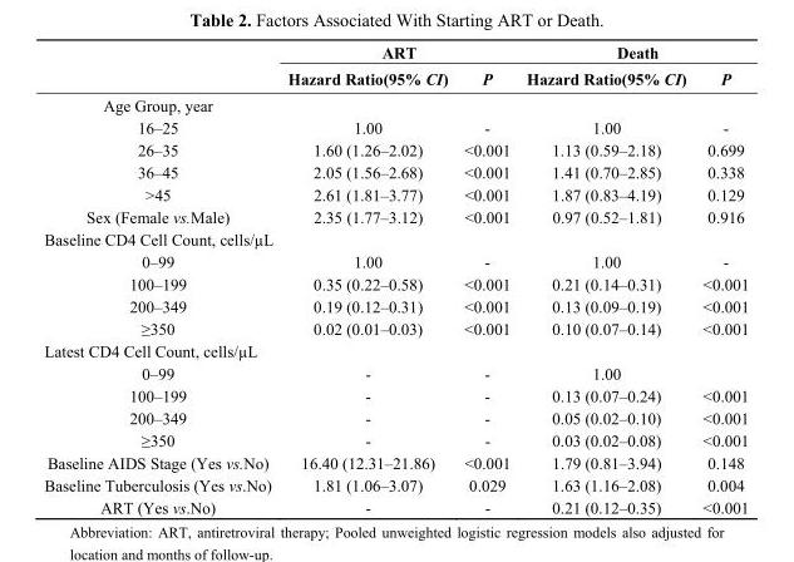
<table><thead><tr><td rowspan="2"></td><td colspan="2">ART</td><td colspan="2">Death</td></tr><tr><td>Hazard Ratio(95% CI)</td><td>P</td><td>Hazard Ratio(95% CI)</td><td>P</td></tr></thead><tbody><tr><td colspan="5">Age Group, year</td></tr><tr><td>16–25</td><td>1.00</td><td>-</td><td>1.00</td><td>-</td></tr><tr><td>26–35</td><td>1.60 (1.26–2.02)</td><td>&lt;0.001</td><td>1.13 (0.59–2.18)</td><td>0.699</td></tr><tr><td>36–45</td><td>2.05 (1.56–2.68)</td><td>&lt;0.001</td><td>1.41 (0.70–2.85)</td><td>0.338</td></tr><tr><td>&gt;45</td><td>2.61 (1.81–3.77)</td><td>&lt;0.001</td><td>1.87 (0.83–4.19)</td><td>0.129</td></tr><tr><td>Sex (Female vs.Male)</td><td>2.35 (1.77–3.12)</td><td>&lt;0.001</td><td>0.97 (0.52–1.81)</td><td>0.916</td></tr><tr><td colspan="5">Baseline CD4 Cell Count, cells/µL</td></tr><tr><td>0–99</td><td>1.00</td><td>-</td><td>1.00</td><td>-</td></tr><tr><td>100–199</td><td>0.35 (0.22–0.58)</td><td>&lt;0.001</td><td>0.21 (0.14–0.31)</td><td>&lt;0.001</td></tr><tr><td>200–349</td><td>0.19 (0.12–0.31)</td><td>&lt;0.001</td><td>0.13 (0.09–0.19)</td><td>&lt;0.001</td></tr><tr><td>≥350</td><td>0.02 (0.01–0.03)</td><td>&lt;0.001</td><td>0.10 (0.07–0.14)</td><td>&lt;0.001</td></tr><tr><td colspan="5">Latest CD4 Cell Count, cells/µL</td></tr><tr><td>0–99</td><td>-</td><td>-</td><td>1.00</td><td></td></tr><tr><td>100–199</td><td>-</td><td>-</td><td>0.13 (0.07–0.24)</td><td>&lt;0.001</td></tr><tr><td>200–349</td><td>-</td><td>-</td><td>0.05 (0.02–0.10)</td><td>&lt;0.001</td></tr><tr><td>≥350</td><td>-</td><td>-</td><td>0.03 (0.02–0.08)</td><td>&lt;0.001</td></tr><tr><td>Baseline AIDS Stage (Yes vs.No)</td><td>16.40 (12.31–21.86)</td><td>&lt;0.001</td><td>1.79 (0.81–3.94)</td><td>0.148</td></tr><tr><td>Baseline Tuberculosis (Yes vs.No)</td><td>1.81 (1.06–3.07)</td><td>0.029</td><td>1.63 (1.16–2.08)</td><td>0.004</td></tr><tr><td>ART (Yes vs.No)</td><td>-</td><td>-</td><td>0.21 (0.12–0.35)</td><td>&lt;0.001</td></tr></tbody></table>